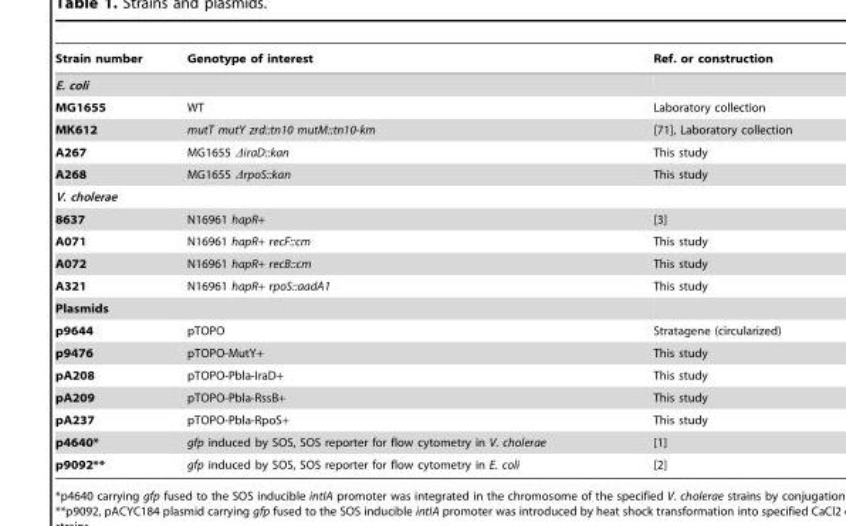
<table><thead><tr><td>Strain number</td><td>Genotype of interest</td><td>Ref. or construction</td></tr></thead><tbody><tr><td colspan="3">E. coli</td></tr><tr><td>MG1655</td><td>WT</td><td>Laboratory collection</td></tr><tr><td>MK612</td><td>mutT mutY zrd::tn10 mutM::tn10-km</td><td>[71], Laboratory collection</td></tr><tr><td>A267</td><td>MG1655 ΔiraD::kan</td><td>This study</td></tr><tr><td>A268</td><td>MG1655 ΔrpoS::kan</td><td>This study</td></tr><tr><td colspan="3">V. cholerae</td></tr><tr><td>8637</td><td>N16961 hapR+</td><td>[3]</td></tr><tr><td>A071</td><td>N16961 hapR+ recF::cm</td><td>This study</td></tr><tr><td>A072</td><td>N16961 hapR+ recB::cm</td><td>This study</td></tr><tr><td>A321</td><td>N16961 hapR+ rpoS::aadA1</td><td>This study</td></tr><tr><td colspan="3">Plasmids</td></tr><tr><td>p9644</td><td>pTOPO</td><td>Stratagene (circularized)</td></tr><tr><td>p9476</td><td>pTOPO-MutY+</td><td>This study</td></tr><tr><td>pA208</td><td>pTOPO-Pbla-IraD+</td><td>This study</td></tr><tr><td>pA209</td><td>pTOPO-Pbla-RssB+</td><td>This study</td></tr><tr><td>pA237</td><td>pTOPO-Pbla-RpoS+</td><td>This study</td></tr><tr><td>p4640*</td><td>gfp induced by SOS, SOS reporter for flow cytometry in V. cholerae</td><td>[1]</td></tr><tr><td>p9092**</td><td>gfp induced by SOS, SOS reporter for flow cytometry in E. coli</td><td>[2]</td></tr></tbody></table>